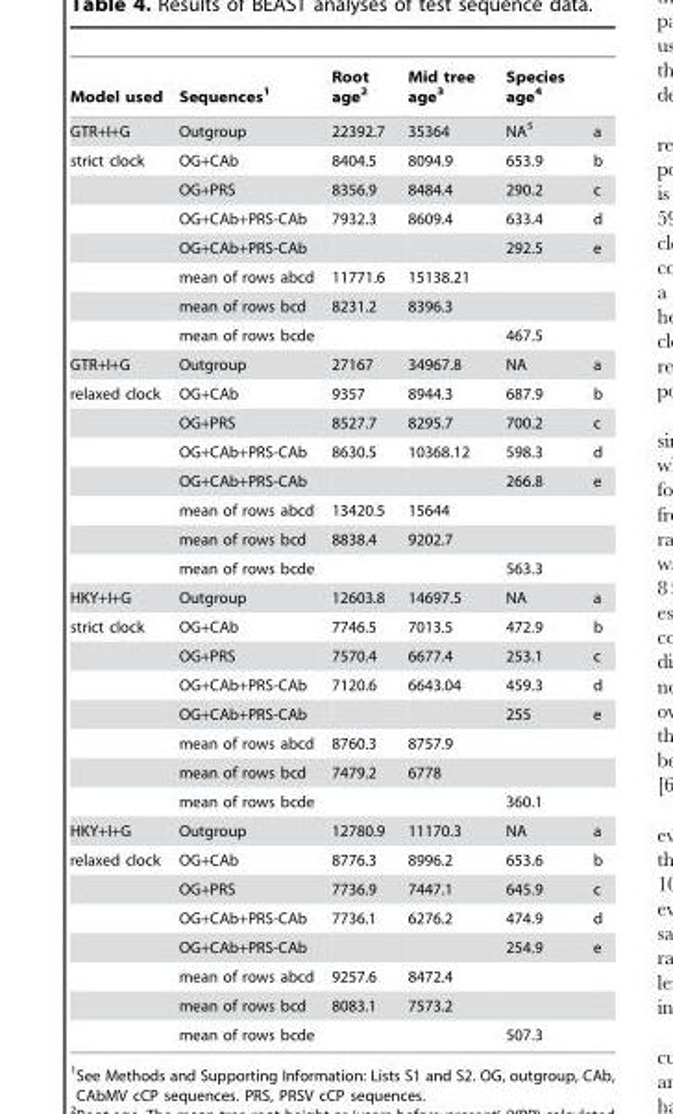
<table><thead><tr><td>Model used</td><td>Sequences<sup>1</sup></td><td>Root age<sup>2</sup></td><td>Mid tree age<sup>3</sup></td><td>Species age<sup>4</sup></td><td></td></tr></thead><tbody><tr><td>GTR+I+G</td><td>Outgroup</td><td>22392.7</td><td>35364</td><td>NA<sup>5</sup></td><td>a</td></tr><tr><td rowspan="7">strict clock</td><td>OG+CAb</td><td>8404.5</td><td>8094.9</td><td>653.9</td><td>b</td></tr><tr><td>OG+PRS</td><td>8356.9</td><td>8484.4</td><td>290.2</td><td>c</td></tr><tr><td>OG+CAb+PRS-CAb</td><td>7932.3</td><td>8609.4</td><td>633.4</td><td>d</td></tr><tr><td>OG+CAb+PRS-CAb</td><td></td><td></td><td>292.5</td><td>e</td></tr><tr><td>mean of rows abcd</td><td>11771.6</td><td>15138.21</td><td></td><td></td></tr><tr><td>mean of rows bcd</td><td>8231.2</td><td>8396.3</td><td></td><td></td></tr><tr><td>mean of rows bcde</td><td></td><td></td><td>467.5</td><td></td></tr><tr><td>GTR+I+G</td><td>Outgroup</td><td>27167</td><td>34967.8</td><td>NA</td><td>a</td></tr><tr><td rowspan="7">relaxed clock</td><td>OG+CAb</td><td>9357</td><td>8944.3</td><td>687.9</td><td>b</td></tr><tr><td>OG+PRS</td><td>8527.7</td><td>8295.7</td><td>700.2</td><td>c</td></tr><tr><td>OG+CAb+PRS-CAb</td><td>8630.5</td><td>10368.12</td><td>598.3</td><td>d</td></tr><tr><td>OG+CAb+PRS-CAb</td><td></td><td></td><td>266.8</td><td>e</td></tr><tr><td>mean of rows abcd</td><td>13420.5</td><td>15644</td><td></td><td></td></tr><tr><td>mean of rows bcd</td><td>8838.4</td><td>9202.7</td><td></td><td></td></tr><tr><td>mean of rows bcde</td><td></td><td></td><td>563.3</td><td></td></tr><tr><td>HKY+I+G</td><td>Outgroup</td><td>12603.8</td><td>14697.5</td><td>NA</td><td>a</td></tr><tr><td rowspan="7">strict clock</td><td>OG+CAb</td><td>7746.5</td><td>7013.5</td><td>472.9</td><td>b</td></tr><tr><td>OG+PRS</td><td>7570.4</td><td>6677.4</td><td>253.1</td><td>c</td></tr><tr><td>OG+CAb+PRS-CAb</td><td>7120.6</td><td>6643.04</td><td>459.3</td><td>d</td></tr><tr><td>OG+CAb+PRS-CAb</td><td></td><td></td><td>255</td><td>e</td></tr><tr><td>mean of rows abcd</td><td>8760.3</td><td>8757.9</td><td></td><td></td></tr><tr><td>mean of rows bcd</td><td>7479.2</td><td>6778</td><td></td><td></td></tr><tr><td>mean of rows bcde</td><td></td><td></td><td>360.1</td><td></td></tr><tr><td>HKY+I+G</td><td>Outgroup</td><td>12780.9</td><td>11170.3</td><td>NA</td><td>a</td></tr><tr><td rowspan="7">relaxed clock</td><td>OG+CAb</td><td>8776.3</td><td>8996.2</td><td>653.6</td><td>b</td></tr><tr><td>OG+PRS</td><td>7736.9</td><td>7447.1</td><td>645.9</td><td>c</td></tr><tr><td>OG+CAb+PRS-CAb</td><td>7736.1</td><td>6276.2</td><td>474.9</td><td>d</td></tr><tr><td>OG+CAb+PRS-CAb</td><td></td><td></td><td>254.9</td><td>e</td></tr><tr><td>mean of rows abcd</td><td>9257.6</td><td>8472.4</td><td></td><td></td></tr><tr><td>mean of rows bcd</td><td>8083.1</td><td>7573.2</td><td></td><td></td></tr><tr><td>mean of rows bcde</td><td></td><td></td><td>507.3</td><td></td></tr></tbody></table>